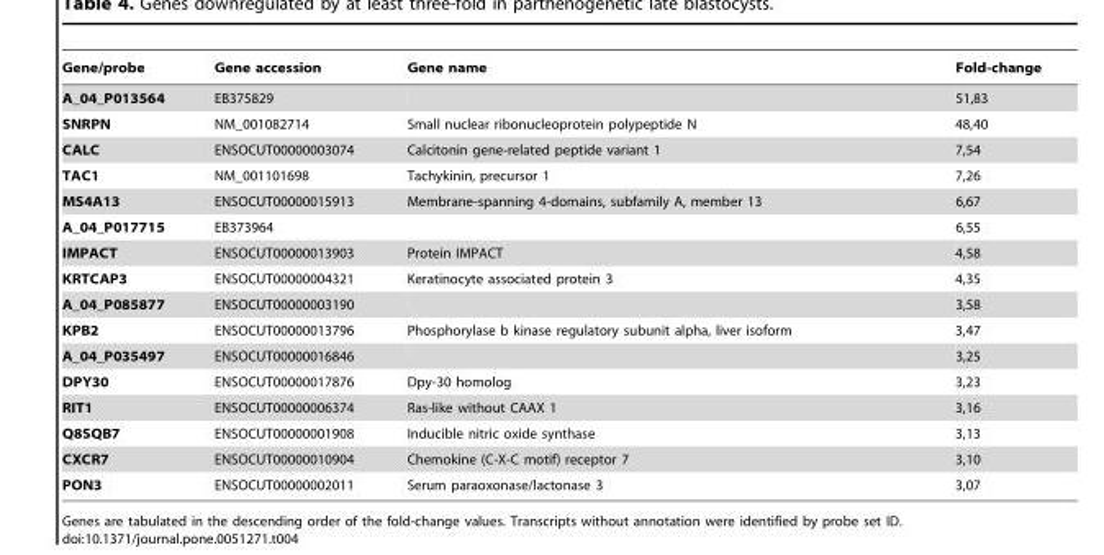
<table><thead><tr><td>Gene/probe</td><td>Gene accession</td><td>Gene name</td><td>Fold-change</td></tr></thead><tbody><tr><td>A_04_P013564</td><td>EB375829</td><td></td><td>51,83</td></tr><tr><td>SNRPN</td><td>NM_001082714</td><td>Small nuclear ribonucleoprotein polypeptide N</td><td>48,40</td></tr><tr><td>CALC</td><td>ENSOCUT00000003074</td><td>Calcitonin gene-related peptide variant 1</td><td>7,54</td></tr><tr><td>TAC1</td><td>NM_001101698</td><td>Tachykinin, precursor 1</td><td>7,26</td></tr><tr><td>MS4A13</td><td>ENSOCUT00000015913</td><td>Membrane-spanning 4-domains, subfamily A, member 13</td><td>6,67</td></tr><tr><td>A_04_P017715</td><td>EB373964</td><td></td><td>6,55</td></tr><tr><td>IMPACT</td><td>ENSOCUT00000013903</td><td>Protein IMPACT</td><td>4,58</td></tr><tr><td>KRTCAP3</td><td>ENSOCUT00000004321</td><td>Keratinocyte associated protein 3</td><td>4,35</td></tr><tr><td>A_04_P085877</td><td>ENSOCUT00000003190</td><td></td><td>3,58</td></tr><tr><td>KPB2</td><td>ENSOCUT00000013796</td><td>Phosphorylase b kinase regulatory subunit alpha, liver isoform</td><td>3,47</td></tr><tr><td>A_04_P035497</td><td>ENSOCUT00000016846</td><td></td><td>3,25</td></tr><tr><td>DPY30</td><td>ENSOCUT00000017876</td><td>Dpy-30 homolog</td><td>3,23</td></tr><tr><td>RIT1</td><td>ENSOCUT00000006374</td><td>Ras-like without CAAX 1</td><td>3,16</td></tr><tr><td>Q8SQB7</td><td>ENSOCUT00000001908</td><td>Inducible nitric oxide synthase</td><td>3,13</td></tr><tr><td>CXCR7</td><td>ENSOCUT00000010904</td><td>Chemokine (C-X-C motif) receptor 7</td><td>3,10</td></tr><tr><td>PON3</td><td>ENSOCUT00000002011</td><td>Serum paraoxonase/lactonase 3</td><td>3,07</td></tr></tbody></table>